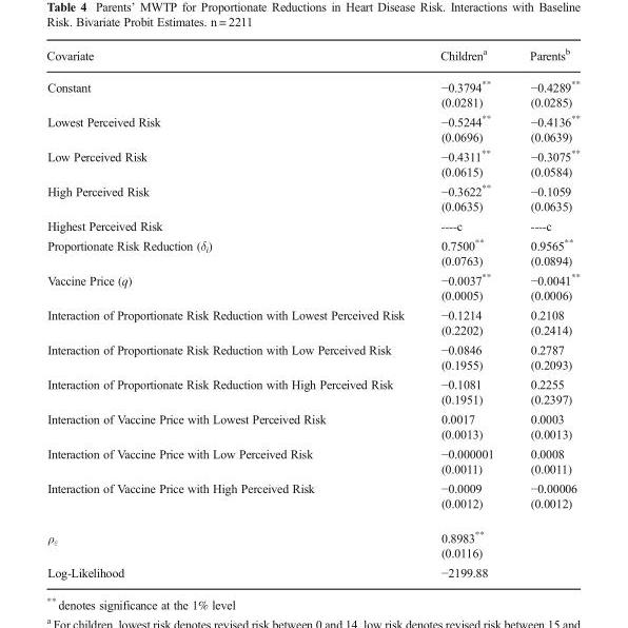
<table><thead><tr><td>Covariate</td><td>Children<sup>a</sup></td><td>Parents<sup>b</sup></td></tr></thead><tbody><tr><td>Constant</td><td>−0.3794** (0.0281)</td><td>−0.4289** (0.0285)</td></tr><tr><td>Lowest Perceived Risk</td><td>−0.5244** (0.0696)</td><td>−0.4136** (0.0639)</td></tr><tr><td>Low Perceived Risk</td><td>−0.4311** (0.0615)</td><td>−0.3075** (0.0584)</td></tr><tr><td>High Perceived Risk</td><td>−0.3622** (0.0635)</td><td>−0.1059 (0.0635)</td></tr><tr><td>Highest Perceived Risk</td><td>----c</td><td>----c</td></tr><tr><td>Proportionate Risk Reduction (δ<sub>i</sub>)</td><td>0.7500** (0.0763)</td><td>0.9565** (0.0894)</td></tr><tr><td>Vaccine Price (q)</td><td>−0.0037** (0.0005)</td><td>−0.0041** (0.0006)</td></tr><tr><td>Interaction of Proportionate Risk Reduction with Lowest Perceived Risk</td><td>−0.1214 (0.2202)</td><td>0.2108 (0.2414)</td></tr><tr><td>Interaction of Proportionate Risk Reduction with Low Perceived Risk</td><td>−0.0846 (0.1955)</td><td>0.2787 (0.2093)</td></tr><tr><td>Interaction of Proportionate Risk Reduction with High Perceived Risk</td><td>−0.1081 (0.1951)</td><td>0.2255 (0.2397)</td></tr><tr><td>Interaction of Vaccine Price with Lowest Perceived Risk</td><td>0.0017 (0.0013)</td><td>0.0003 (0.0013)</td></tr><tr><td>Interaction of Vaccine Price with Low Perceived Risk</td><td>−0.000001 (0.0011)</td><td>0.0008 (0.0011)</td></tr><tr><td>Interaction of Vaccine Price with High Perceived Risk</td><td>−0.0009 (0.0012)</td><td>−0.00006 (0.0012)</td></tr><tr><td>ρ<sub>ε</sub></td><td colspan="2">0.8983** (0.0116)</td></tr><tr><td>Log-Likelihood</td><td colspan="2">−2199.88</td></tr></tbody></table>